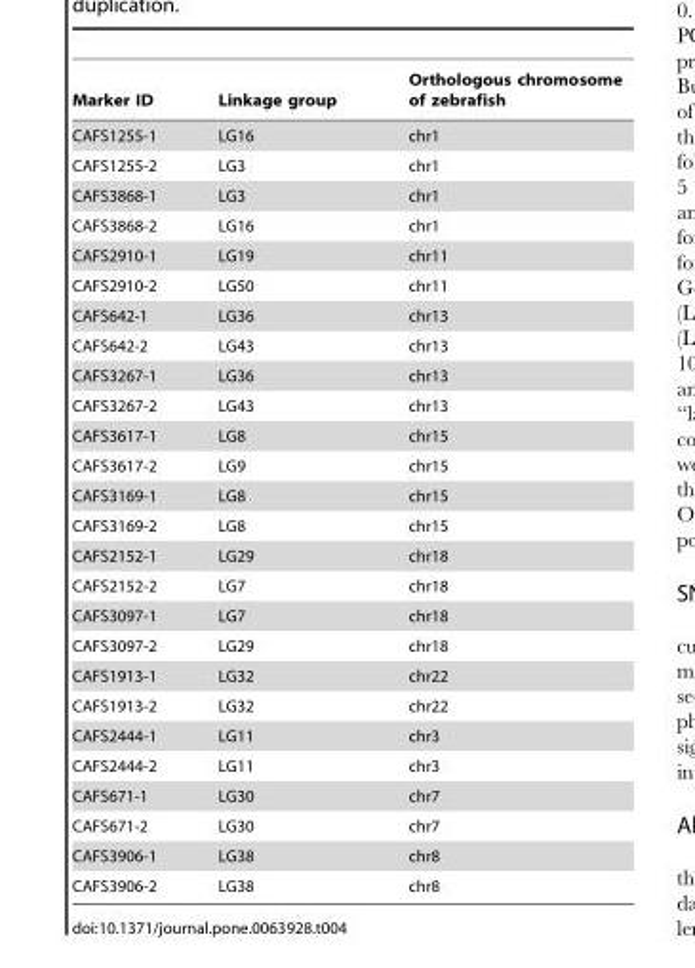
<table><thead><tr><td>Marker ID</td><td>Linkage group</td><td>Orthologous chromosome of zebrafish</td></tr></thead><tbody><tr><td>CAFS1255-1</td><td>LG16</td><td>chr1</td></tr><tr><td>CAFS1255-2</td><td>LG3</td><td>chr1</td></tr><tr><td>CAFS3868-1</td><td>LG3</td><td>chr1</td></tr><tr><td>CAFS3868-2</td><td>LG16</td><td>chr1</td></tr><tr><td>CAFS2910-1</td><td>LG19</td><td>chr11</td></tr><tr><td>CAFS2910-2</td><td>LG50</td><td>chr11</td></tr><tr><td>CAFS642-1</td><td>LG36</td><td>chr13</td></tr><tr><td>CAFS642-2</td><td>LG43</td><td>chr13</td></tr><tr><td>CAFS3267-1</td><td>LG36</td><td>chr13</td></tr><tr><td>CAFS3267-2</td><td>LG43</td><td>chr13</td></tr><tr><td>CAFS3617-1</td><td>LG8</td><td>chr15</td></tr><tr><td>CAFS3617-2</td><td>LG9</td><td>chr15</td></tr><tr><td>CAFS3169-1</td><td>LG8</td><td>chr15</td></tr><tr><td>CAFS3169-2</td><td>LG8</td><td>chr15</td></tr><tr><td>CAFS2152-1</td><td>LG29</td><td>chr18</td></tr><tr><td>CAFS2152-2</td><td>LG7</td><td>chr18</td></tr><tr><td>CAFS3097-1</td><td>LG7</td><td>chr18</td></tr><tr><td>CAFS3097-2</td><td>LG29</td><td>chr18</td></tr><tr><td>CAFS1913-1</td><td>LG32</td><td>chr22</td></tr><tr><td>CAFS1913-2</td><td>LG32</td><td>chr22</td></tr><tr><td>CAFS2444-1</td><td>LG11</td><td>chr3</td></tr><tr><td>CAFS2444-2</td><td>LG11</td><td>chr3</td></tr><tr><td>CAFS671-1</td><td>LG30</td><td>chr7</td></tr><tr><td>CAFS671-2</td><td>LG30</td><td>chr7</td></tr><tr><td>CAFS3906-1</td><td>LG38</td><td>chr8</td></tr><tr><td>CAFS3906-2</td><td>LG38</td><td>chr8</td></tr></tbody></table>